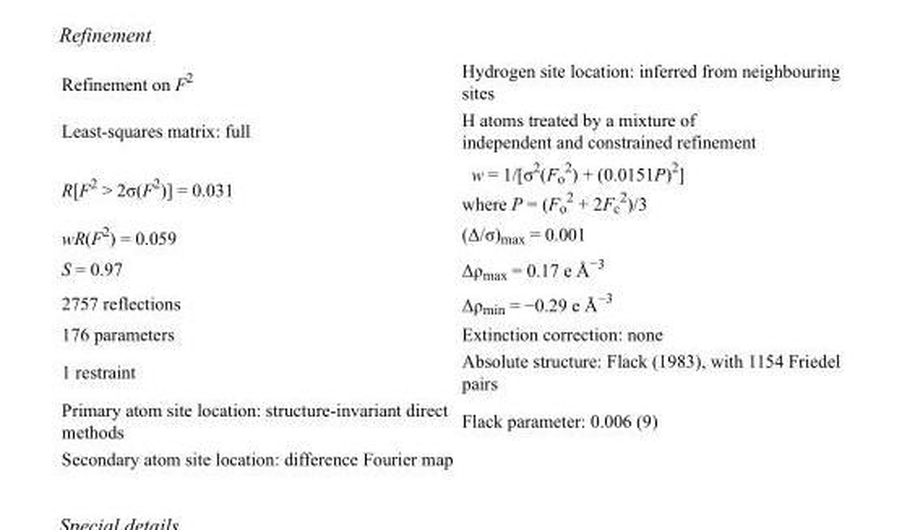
<table><tbody><tr><td>Refinement on F<sup>2</sup></td><td>Hydrogen site location: inferred from neighbouring sites</td></tr><tr><td>Least-squares matrix: full</td><td>H atoms treated by a mixture of independent and constrained refinement</td></tr><tr><td>R[F<sup>2</sup> &gt; 2σ(F<sup>2</sup>)] = 0.031</td><td>w = 1/[σ<sup>2</sup>(F<sub>o</sub> <sup>2</sup>) + (0.0151P)<sup>2</sup>] where P = (F<sub>o</sub> <sup>2</sup> + 2F<sub>c</sub> <sup>2</sup>)/3</td></tr><tr><td>wR(F<sup>2</sup>) = 0.059</td><td>(Δ/σ)<sub>max</sub> = 0.001</td></tr><tr><td>S = 0.97</td><td>Δρ<sub>max</sub> = 0.17 e Å<sup>−3</sup></td></tr><tr><td>2757 reflections</td><td>Δρ<sub>min</sub> = −0.29 e Å<sup>−3</sup></td></tr><tr><td>176 parameters</td><td>Extinction correction: none</td></tr><tr><td>1 restraint</td><td>Absolute structure: Flack (1983), with 1154 Friedel pairs</td></tr><tr><td>Primary atom site location: structure-invariant direct methods</td><td>Flack parameter: 0.006 (9)</td></tr><tr><td>Secondary atom site location: difference Fourier map</td><td></td></tr></tbody></table>